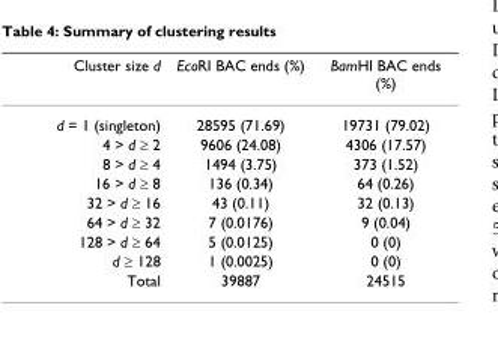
<table><thead><tr><td>Cluster size d</td><td>EcoRI BAC ends (%)</td><td>BamHI BAC ends (%)</td></tr></thead><tbody><tr><td>d = 1 (singleton)</td><td>28595 (71.69)</td><td>19731 (79.02)</td></tr><tr><td>4 &gt; d ≥ 2</td><td>9606 (24.08)</td><td>4306 (17.57)</td></tr><tr><td>8 &gt; d ≥ 4</td><td>1494 (3.75)</td><td>373 (1.52)</td></tr><tr><td>16 &gt; d ≥ 8</td><td>136 (0.34)</td><td>64 (0.26)</td></tr><tr><td>32 &gt; d ≥ 16</td><td>43 (0.11)</td><td>32 (0.13)</td></tr><tr><td>64 &gt; d ≥ 32</td><td>7 (0.0176)</td><td>9 (0.04)</td></tr><tr><td>128 &gt; d ≥ 64</td><td>5 (0.0125)</td><td>0 (0)</td></tr><tr><td>d ≥ 128</td><td>1 (0.0025)</td><td>0 (0)</td></tr><tr><td>Total</td><td>39887</td><td>24515</td></tr></tbody></table>